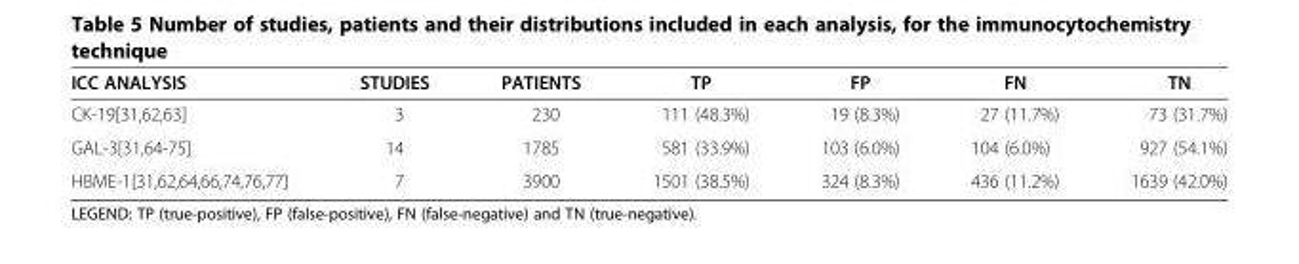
<table><thead><tr><td>ICC ANALYSIS</td><td>STUDIES</td><td>PATIENTS</td><td>TP</td><td>FP</td><td>FN</td><td>TN</td></tr></thead><tbody><tr><td>CK-19[31,62,63]</td><td>3</td><td>230</td><td>111 (48.3%)</td><td>19 (8.3%)</td><td>27 (11.7%)</td><td>73 (31.7%)</td></tr><tr><td>GAL-3[31,64-75]</td><td>14</td><td>1785</td><td>581 (33.9%)</td><td>103 (6.0%)</td><td>104 (6.0%)</td><td>927 (54.1%)</td></tr><tr><td>HBME-1[31,62,64,66,74,76,77]</td><td>7</td><td>3900</td><td>1501 (38.5%)</td><td>324 (8.3%)</td><td>436 (11.2%)</td><td>1639 (42.0%)</td></tr></tbody></table>